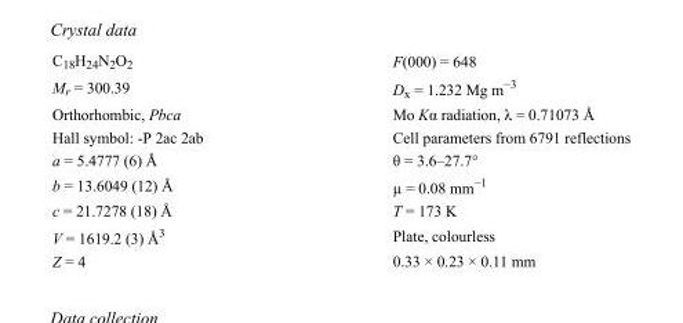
<table><tbody><tr><td>C<sub>18</sub>H<sub>24</sub>N<sub>2</sub>O<sub>2</sub></td><td>F(000) = 648</td></tr><tr><td>M<sub>r</sub> = 300.39</td><td>D<sub>x</sub> = 1.232 Mg m<sup>−3</sup></td></tr><tr><td>Orthorhombic, Pbca</td><td>Mo Kα radiation, λ = 0.71073 Å</td></tr><tr><td>Hall symbol: -P 2ac 2ab</td><td>Cell parameters from 6791 reflections</td></tr><tr><td>a = 5.4777 (6) Å</td><td>θ = 3.6–27.7°</td></tr><tr><td>b = 13.6049 (12) Å</td><td>µ = 0.08 mm<sup>−1</sup></td></tr><tr><td>c = 21.7278 (18) Å</td><td>T = 173 K</td></tr><tr><td>V = 1619.2 (3) Å<sup>3</sup></td><td>Plate, colourless</td></tr><tr><td>Z = 4</td><td>0.33 × 0.23 × 0.11 mm</td></tr></tbody></table>